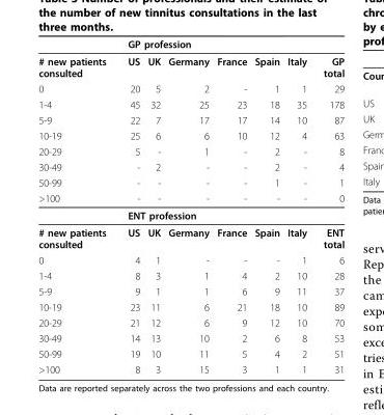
<table><thead><tr><td rowspan="2"># new patients consulted</td><td colspan="3">GP profession</td><td rowspan="2">France</td><td rowspan="2">Spain</td><td rowspan="2">Italy</td><td rowspan="2">GP total</td></tr><tr><td>US</td><td>UK</td><td>Germany</td></tr></thead><tbody><tr><td>0</td><td>20</td><td>5</td><td>2</td><td>-</td><td>1</td><td>1</td><td>29</td></tr><tr><td>1-4</td><td>45</td><td>32</td><td>25</td><td>23</td><td>18</td><td>35</td><td>178</td></tr><tr><td>5-9</td><td>22</td><td>7</td><td>17</td><td>17</td><td>14</td><td>10</td><td>87</td></tr><tr><td>10-19</td><td>25</td><td>6</td><td>6</td><td>10</td><td>12</td><td>4</td><td>63</td></tr><tr><td>20-29</td><td>5</td><td>-</td><td>1</td><td>-</td><td>2</td><td>-</td><td>8</td></tr><tr><td>30-49</td><td>-</td><td>2</td><td>-</td><td>-</td><td>2</td><td>-</td><td>4</td></tr><tr><td>50-99</td><td>-</td><td>-</td><td>-</td><td>-</td><td>1</td><td>-</td><td>1</td></tr><tr><td rowspan="2">&gt;100</td><td>-</td><td>-</td><td>-</td><td>-</td><td>-</td><td>-</td><td>0</td></tr><tr><td colspan="3">ENT profession</td><td></td><td></td><td></td><td></td></tr><tr><td># new patients consulted</td><td>US</td><td>UK</td><td>Germany</td><td>France</td><td>Spain</td><td>Italy</td><td>ENT total</td></tr><tr><td>0</td><td>4</td><td>1</td><td>-</td><td>-</td><td>-</td><td>1</td><td>6</td></tr><tr><td>1-4</td><td>8</td><td>3</td><td>1</td><td>4</td><td>2</td><td>10</td><td>28</td></tr><tr><td>5-9</td><td>9</td><td>1</td><td>1</td><td>6</td><td>9</td><td>11</td><td>37</td></tr><tr><td>10-19</td><td>23</td><td>11</td><td>6</td><td>21</td><td>18</td><td>10</td><td>89</td></tr><tr><td>20-29</td><td>21</td><td>12</td><td>6</td><td>9</td><td>12</td><td>10</td><td>70</td></tr><tr><td>30-49</td><td>14</td><td>13</td><td>10</td><td>2</td><td>6</td><td>8</td><td>53</td></tr><tr><td>50-99</td><td>19</td><td>10</td><td>11</td><td>5</td><td>4</td><td>2</td><td>51</td></tr><tr><td>&gt;100</td><td>8</td><td>3</td><td>15</td><td>3</td><td>1</td><td>1</td><td>31</td></tr></tbody></table>